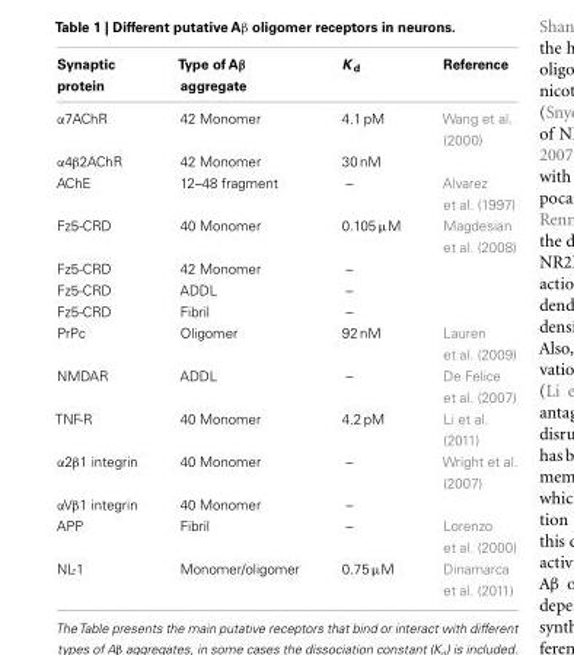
<table><thead><tr><td>Synaptic protein</td><td>Type of Aβ aggregate</td><td>K <sub>d</sub></td><td>Reference</td></tr></thead><tbody><tr><td>α7AChR</td><td>42 Monomer</td><td>4.1 pM</td><td>Wang et al. (2000)</td></tr><tr><td>α4β2AChR</td><td>42 Monomer</td><td>30 nM</td><td></td></tr><tr><td>AChE</td><td>12–48 fragment</td><td>–</td><td>Alvarez et al. (1997)</td></tr><tr><td>Fz5-CRD</td><td>40 Monomer</td><td>0.105 µM</td><td>Magdesian et al. (2008)</td></tr><tr><td>Fz5-CRD</td><td>42 Monomer</td><td>–</td><td></td></tr><tr><td>Fz5-CRD</td><td>ADDL</td><td>–</td><td></td></tr><tr><td>Fz5-CRD</td><td>Fibril</td><td>–</td><td></td></tr><tr><td>PrPc</td><td>Oligomer</td><td>92 nM</td><td>Lauren et al. (2009)</td></tr><tr><td>NMDAR</td><td>ADDL</td><td>–</td><td>De Felice et al. (2007)</td></tr><tr><td>TNF-R</td><td>40 Monomer</td><td>4.2 pM</td><td>Li et al. (2011)</td></tr><tr><td>α2β1 integrin</td><td>40 Monomer</td><td>–</td><td>Wright et al. (2007)</td></tr><tr><td>αVβ1 integrin</td><td>40 Monomer</td><td>–</td><td></td></tr><tr><td>APP</td><td>Fibril</td><td>–</td><td>Lorenzo et al. (2000)</td></tr><tr><td>NL-1</td><td>Monomer/oligomer</td><td>0.75 µM</td><td>Dinamarca et al. (2011)</td></tr></tbody></table>